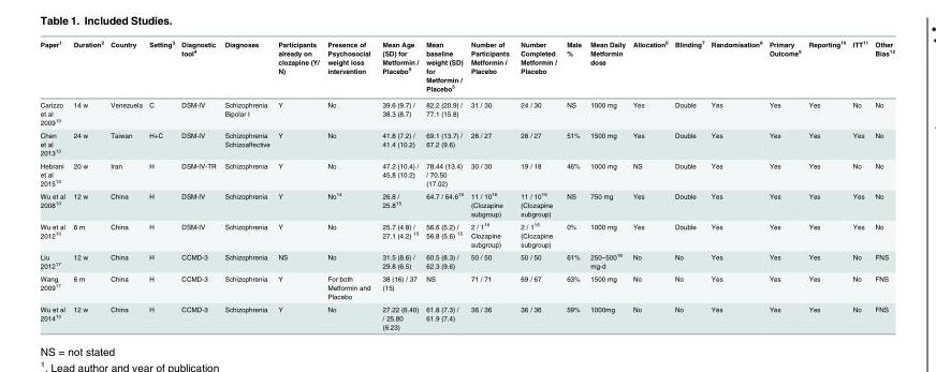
<table><thead><tr><td>Paper<sup>1</sup></td><td>Duration<sup>2</sup></td><td>Country</td><td>Setting<sup>3</sup></td><td>Diagnostic tool<sup>4</sup></td><td>Diagnoses</td><td>Participants already on clozapine (Y/ N)</td><td>Presence of Psychosocial weight loss intervention</td><td>Mean Age (SD) for Metformin / Placebo<sup>5</sup></td><td>Mean baseline weight (SD) for Metformin / Placebo<sup>5</sup></td><td>Number of Participants Metformin / Placebo</td><td>Number Completed Metformin / Placebo</td><td>Male %</td><td>Mean Daily Metformin dose</td><td>Allocation<sup>6</sup></td><td>Blinding<sup>7</sup></td><td>Randomisation<sup>8</sup></td><td>Primary Outcome<sup>9</sup></td><td>Reporting<sup>10</sup></td><td>ITT<sup>11</sup></td><td>Other Bias<sup>12</sup></td></tr></thead><tbody><tr><td>Carizzo et al 2009<sup>13</sup></td><td>14 w</td><td>Venezuela</td><td>C</td><td>DSM-IV</td><td>Schizophrenia Bipolar I</td><td>Y</td><td>No</td><td>39.6 (9.7) / 38.3 (8.7)</td><td>82.2 (20.9) / 77.1 (15.8)</td><td>31 / 30</td><td>24 / 30</td><td>NS</td><td>1000 mg</td><td>Yes</td><td>Double</td><td>Yes</td><td>Yes</td><td>Yes</td><td>No</td><td>No</td></tr><tr><td>Chen et al 2013<sup>13</sup></td><td>24 w</td><td>Taiwan</td><td>H+C</td><td>DSM-IV</td><td>Schizophrenia Schizoaffective</td><td>Y</td><td>No</td><td>41.8 (7.2) / 41.4 (10.2)</td><td>69.1 (13.7) / 67.2 (9.6)</td><td>28 / 27</td><td>28 / 27</td><td>51%</td><td>1500 mg</td><td>Yes</td><td>Double</td><td>Yes</td><td>Yes</td><td>Yes</td><td>Yes</td><td>No</td></tr><tr><td>Hebrani et al 2015<sup>13</sup></td><td>20 w</td><td>Iran</td><td>H</td><td>DSM-IV-TR</td><td>Schizophrenia</td><td>Y</td><td>No</td><td>47.2 (10.4) / 45.8 (10.2)</td><td>78.44 (13.4) / 70.50 (17.02)</td><td>30 / 30</td><td>19 / 18</td><td>46%</td><td>1000 mg</td><td>NS</td><td>Double</td><td>Yes</td><td>Yes</td><td>Yes</td><td>No</td><td>No</td></tr><tr><td>Wu et al 2008<sup>13</sup></td><td>12 w</td><td>China</td><td>H</td><td>DSM-IV</td><td>Schizophrenia</td><td>Y</td><td>No<sup>14</sup></td><td>26.8 / 25.8<sup>15</sup></td><td>64.7 / 64.6<sup>15</sup></td><td>11 / 10<sup>16</sup> (Clozapine subgroup)</td><td>11 / 10<sup>16</sup> (Clozapine subgroup)</td><td>NS</td><td>750 mg</td><td>Yes</td><td>Double</td><td>Yes</td><td>Yes</td><td>Yes</td><td>Yes</td><td>No</td></tr><tr><td>Wu et al 2012<sup>13</sup></td><td>6 m</td><td>China</td><td>H</td><td>DSM-IV</td><td>Schizophrenia</td><td>Y</td><td>No</td><td>25.7 (4.8) / 27.1 (4.2) <sup>15</sup></td><td>56.6 (5.2) / 56.8 (5.6) <sup>15</sup></td><td>2 / 1<sup>16</sup> Clozapine subgroup)</td><td>2 / 1<sup>16</sup> (Clozapine subgroup)</td><td>0%</td><td>1000 mg</td><td>Yes</td><td>Double</td><td>Yes</td><td>Yes</td><td>Yes</td><td>Yes</td><td>No</td></tr><tr><td>Liu 2012<sup>17</sup></td><td>12 w</td><td>China</td><td>H</td><td>CCMD-3</td><td>Schizophrenia</td><td>NS</td><td>No</td><td>31.5 (8.6) / 29.8 (6.5)</td><td>60.5 (8.3) / 62.3 (9.6)</td><td>50 / 50</td><td>50 / 50</td><td>61%</td><td>250–500<sup>18</sup> mg-d</td><td>No</td><td>No</td><td>Yes</td><td>Yes</td><td>Yes</td><td>No</td><td>FNS</td></tr><tr><td>Wang 2009<sup>17</sup></td><td>6 m</td><td>China</td><td>H</td><td>CCMD-3</td><td>Schizophrenia</td><td>Y</td><td>For both Metformin and Placebo</td><td>38 (16) / 37 (15)</td><td>NS</td><td>71 / 71</td><td>69 / 67</td><td>63%</td><td>1500 mg</td><td>No</td><td>No</td><td>Yes</td><td>Yes</td><td>Yes</td><td>No</td><td>FNS</td></tr><tr><td>Wu et al 2014<sup>13</sup></td><td>12 w</td><td>China</td><td>H</td><td>CCMD-3</td><td>Schizophrenia</td><td>Y</td><td>No</td><td>27.22 (6.40) / 25.80 (6.23)</td><td>61.8 (7.3) / 61.9 (7.4)</td><td>36 / 36</td><td>36 / 36</td><td>59%</td><td>1000mg</td><td>No</td><td>No</td><td>Yes</td><td>Yes</td><td>Yes</td><td>No</td><td>FNS</td></tr></tbody></table>